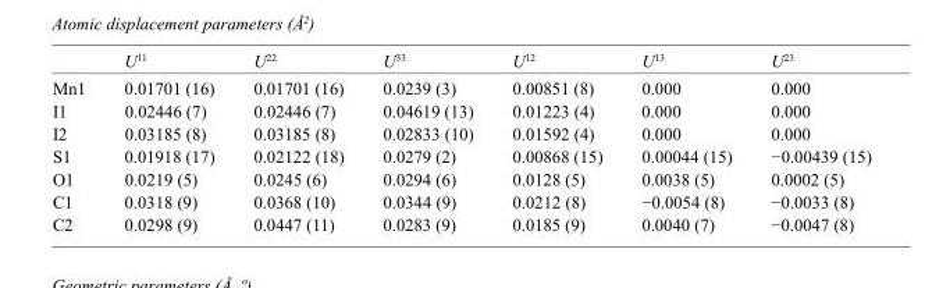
<table><thead><tr><td></td><td>U<sup>11</sup></td><td>U<sup>22</sup></td><td>U<sup>33</sup></td><td>U<sup>12</sup></td><td>U<sup>13</sup></td><td>U<sup>23</sup></td></tr></thead><tbody><tr><td>Mn1</td><td>0.01701 (16)</td><td>0.01701 (16)</td><td>0.0239 (3)</td><td>0.00851 (8)</td><td>0.000</td><td>0.000</td></tr><tr><td>I1</td><td>0.02446 (7)</td><td>0.02446 (7)</td><td>0.04619 (13)</td><td>0.01223 (4)</td><td>0.000</td><td>0.000</td></tr><tr><td>I2</td><td>0.03185 (8)</td><td>0.03185 (8)</td><td>0.02833 (10)</td><td>0.01592 (4)</td><td>0.000</td><td>0.000</td></tr><tr><td>S1</td><td>0.01918 (17)</td><td>0.02122 (18)</td><td>0.0279 (2)</td><td>0.00868 (15)</td><td>0.00044 (15)</td><td>−0.00439 (15)</td></tr><tr><td>O1</td><td>0.0219 (5)</td><td>0.0245 (6)</td><td>0.0294 (6)</td><td>0.0128 (5)</td><td>0.0038 (5)</td><td>0.0002 (5)</td></tr><tr><td>C1</td><td>0.0318 (9)</td><td>0.0368 (10)</td><td>0.0344 (9)</td><td>0.0212 (8)</td><td>−0.0054 (8)</td><td>−0.0033 (8)</td></tr><tr><td>C2</td><td>0.0298 (9)</td><td>0.0447 (11)</td><td>0.0283 (9)</td><td>0.0185 (9)</td><td>0.0040 (7)</td><td>−0.0047 (8)</td></tr></tbody></table>